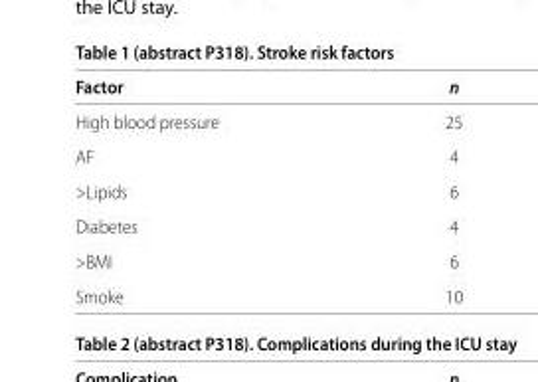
<table><thead><tr><td>Factor</td><td>n</td></tr></thead><tbody><tr><td>High blood pressure</td><td>25</td></tr><tr><td>AF</td><td>4</td></tr><tr><td>&gt;Lipids</td><td>6</td></tr><tr><td>Diabetes</td><td>4</td></tr><tr><td>&gt;BMI</td><td>6</td></tr><tr><td>Smoke</td><td>10</td></tr></tbody></table>